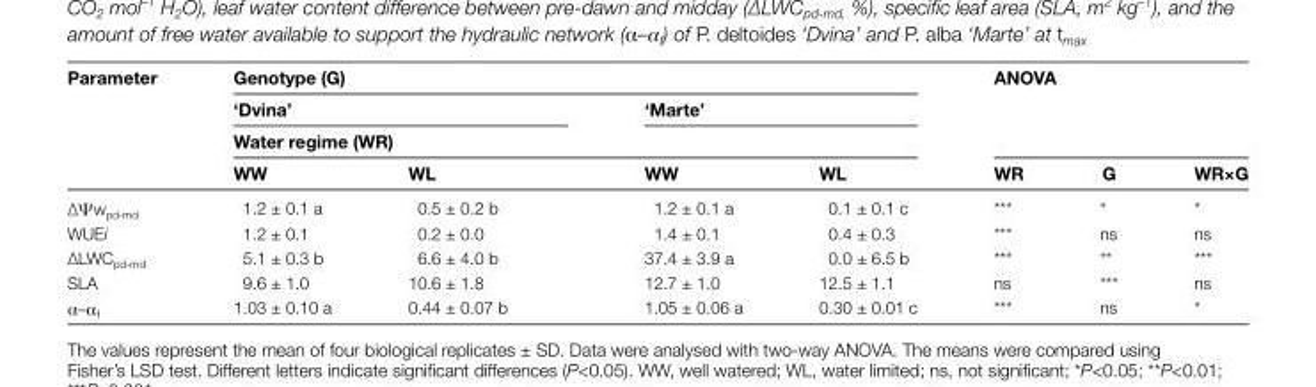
<table><thead><tr><td rowspan="4">Parameter</td><td colspan="4">Genotype (G)</td><td rowspan="3" colspan="3">ANOVA</td></tr><tr><td colspan="2">‘Dvina’</td><td colspan="2">‘Marte’</td></tr><tr><td colspan="4">Water regime (WR)</td></tr><tr><td>WW</td><td>WL</td><td>WW</td><td>WL</td><td>WR</td><td>G</td><td>WR×G</td></tr></thead><tbody><tr><td>ΔΨw<sub>pd-md</sub></td><td>1.2 ± 0.1 a</td><td>0.5 ± 0.2 b</td><td>1.2 ± 0.1 a</td><td>0.1 ± 0.1 c</td><td>***</td><td>*</td><td>*</td></tr><tr><td>WUEi</td><td>1.2 ± 0.1</td><td>0.2 ± 0.0</td><td>1.4 ± 0.1</td><td>0.4 ± 0.3</td><td>***</td><td>ns</td><td>ns</td></tr><tr><td>ΔLWC<sub>pd-md</sub></td><td>5.1 ± 0.3 b</td><td>6.6 ± 4.0 b</td><td>37.4 ± 3.9 a</td><td>0.0 ± 6.5 b</td><td>***</td><td>**</td><td>***</td></tr><tr><td>SLA</td><td>9.6 ± 1.0</td><td>10.6 ± 1.8</td><td>12.7 ± 1.0</td><td>12.5 ± 1.1</td><td>ns</td><td>***</td><td>ns</td></tr><tr><td>α–α<sub>f</sub></td><td>1.03 ± 0.10 a</td><td>0.44 ± 0.07 b</td><td>1.05 ± 0.06 a</td><td>0.30 ± 0.01 c</td><td>***</td><td>ns</td><td>*</td></tr></tbody></table>